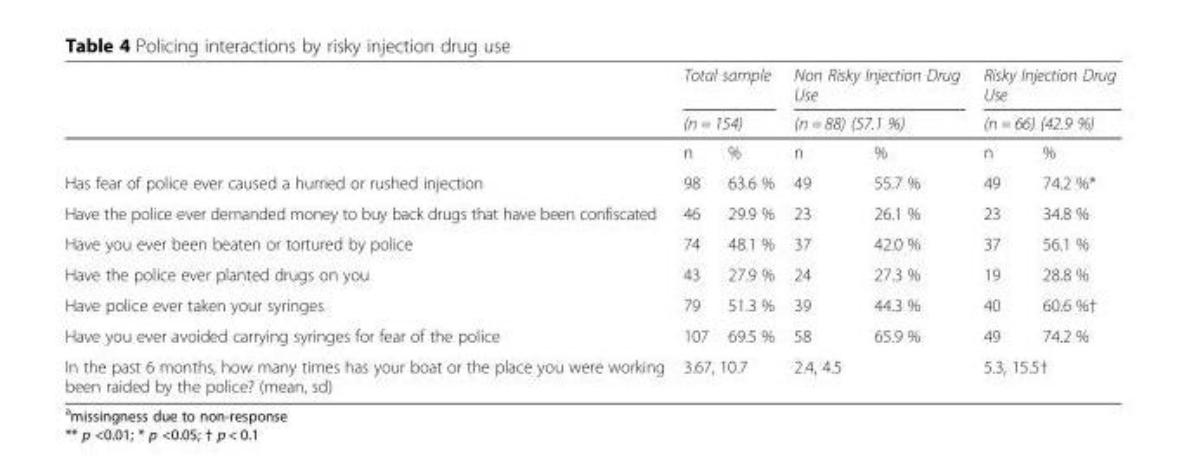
<table><thead><tr><td rowspan="3"></td><td rowspan="2" colspan="2">Total sample (n = 154)</td><td rowspan="2" colspan="2">Non Risky Injection Drug Use (n = 88) (57.1 %)</td><td rowspan="2" colspan="2">Risky Injection Drug Use (n = 66) (42.9 %)</td></tr><tr></tr><tr><td>n</td><td>%</td><td>n</td><td>%</td><td>n</td><td>%</td></tr></thead><tbody><tr><td>Has fear of police ever caused a hurried or rushed injection</td><td>98</td><td>63.6 %</td><td>49</td><td>55.7 %</td><td>49</td><td>74.2 %*</td></tr><tr><td>Have the police ever demanded money to buy back drugs that have been confiscated</td><td>46</td><td>29.9 %</td><td>23</td><td>26.1 %</td><td>23</td><td>34.8 %</td></tr><tr><td>Have you ever been beaten or tortured by police</td><td>74</td><td>48.1 %</td><td>37</td><td>42.0 %</td><td>37</td><td>56.1 %</td></tr><tr><td>Have the police ever planted drugs on you</td><td>43</td><td>27.9 %</td><td>24</td><td>27.3 %</td><td>19</td><td>28.8 %</td></tr><tr><td>Have police ever taken your syringes</td><td>79</td><td>51.3 %</td><td>39</td><td>44.3 %</td><td>40</td><td>60.6 %†</td></tr><tr><td>Have you ever avoided carrying syringes for fear of the police</td><td>107</td><td>69.5 %</td><td>58</td><td>65.9 %</td><td>49</td><td>74.2 %</td></tr><tr><td>In the past 6 months, how many times has your boat or the place you were working been raided by the police? (mean, sd)</td><td colspan="2">3.67, 10.7</td><td colspan="2">2.4, 4.5</td><td colspan="2">5.3, 15.5†</td></tr></tbody></table>